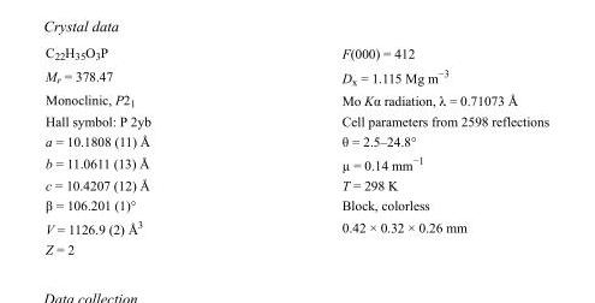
<table><tbody><tr><td>C<sub>22</sub>H<sub>35</sub>O<sub>3</sub>P</td><td>F(000) = 412</td></tr><tr><td>M<sub>r</sub> = 378.47</td><td>D<sub>x</sub> = 1.115 Mg m<sup>−3</sup></td></tr><tr><td>Monoclinic, P2<sub>1</sub></td><td>Mo Kα radiation, λ = 0.71073 Å</td></tr><tr><td>Hall symbol: P 2yb</td><td>Cell parameters from 2598 reflections</td></tr><tr><td>a = 10.1808 (11) Å</td><td>θ = 2.5–24.8°</td></tr><tr><td>b = 11.0611 (13) Å</td><td>µ = 0.14 mm<sup>−1</sup></td></tr><tr><td>c = 10.4207 (12) Å</td><td>T = 298 K</td></tr><tr><td>β = 106.201 (1)°</td><td>Block, colorless</td></tr><tr><td>V = 1126.9 (2) Å<sup>3</sup></td><td>0.42 × 0.32 × 0.26 mm</td></tr><tr><td>Z = 2</td><td></td></tr></tbody></table>